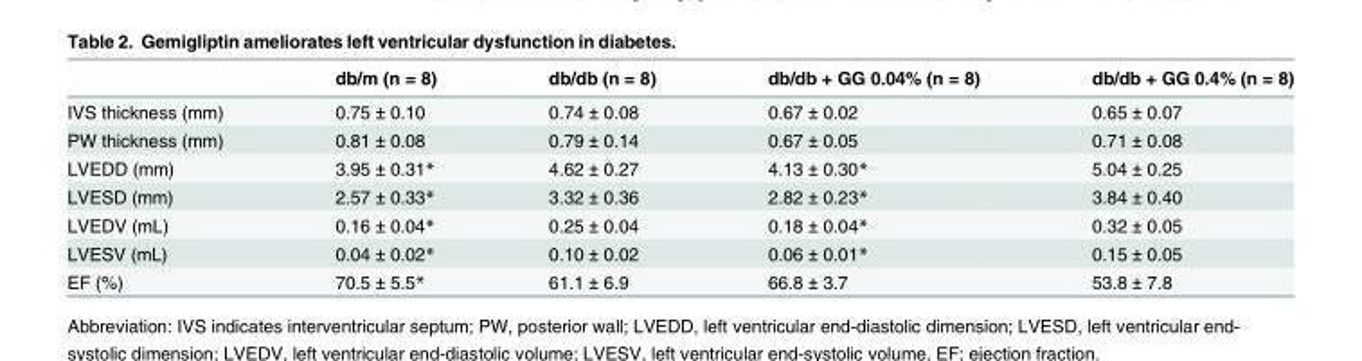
<table><thead><tr><td></td><td>db/m (n = 8)</td><td>db/db (n = 8)</td><td>db/db + GG 0.04% (n = 8)</td><td>db/db + GG 0.4% (n = 8)</td></tr></thead><tbody><tr><td>IVS thickness (mm)</td><td>0.75 ± 0.10</td><td>0.74 ± 0.08</td><td>0.67 ± 0.02</td><td>0.65 ± 0.07</td></tr><tr><td>PW thickness (mm)</td><td>0.81 ± 0.08</td><td>0.79 ± 0.14</td><td>0.67 ± 0.05</td><td>0.71 ± 0.08</td></tr><tr><td>LVEDD (mm)</td><td>3.95 ± 0.31*</td><td>4.62 ± 0.27</td><td>4.13 ± 0.30*</td><td>5.04 ± 0.25</td></tr><tr><td>LVESD (mm)</td><td>2.57 ± 0.33*</td><td>3.32 ± 0.36</td><td>2.82 ± 0.23*</td><td>3.84 ± 0.40</td></tr><tr><td>LVEDV (mL)</td><td>0.16 ± 0.04*</td><td>0.25 ± 0.04</td><td>0.18 ± 0.04*</td><td>0.32 ± 0.05</td></tr><tr><td>LVESV (mL)</td><td>0.04 ± 0.02*</td><td>0.10 ± 0.02</td><td>0.06 ± 0.01*</td><td>0.15 ± 0.05</td></tr><tr><td>EF (%)</td><td>70.5 ± 5.5*</td><td>61.1 ± 6.9</td><td>66.8 ± 3.7</td><td>53.8 ± 7.8</td></tr></tbody></table>